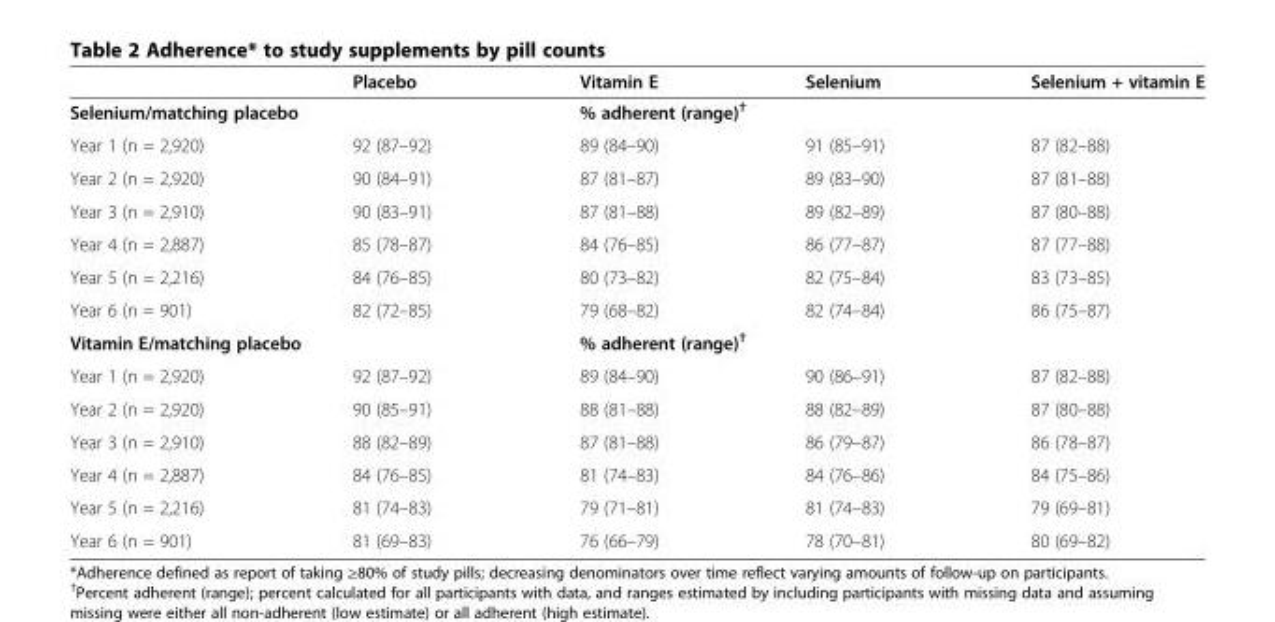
<table><thead><tr><td></td><td>Placebo</td><td>Vitamin E</td><td>Selenium</td><td>Selenium + vitamin E</td></tr></thead><tbody><tr><td colspan="2">Selenium/matching placebo</td><td colspan="3">% adherent (range)<sup>†</sup></td></tr><tr><td>Year 1 (n = 2,920)</td><td>92 (87–92)</td><td>89 (84–90)</td><td>91 (85–91)</td><td>87 (82–88)</td></tr><tr><td>Year 2 (n = 2,920)</td><td>90 (84–91)</td><td>87 (81–87)</td><td>89 (83–90)</td><td>87 (81–88)</td></tr><tr><td>Year 3 (n = 2,910)</td><td>90 (83–91)</td><td>87 (81–88)</td><td>89 (82–89)</td><td>87 (80–88)</td></tr><tr><td>Year 4 (n = 2,887)</td><td>85 (78–87)</td><td>84 (76–85)</td><td>86 (77–87)</td><td>87 (77–88)</td></tr><tr><td>Year 5 (n = 2,216)</td><td>84 (76–85)</td><td>80 (73–82)</td><td>82 (75–84)</td><td>83 (73–85)</td></tr><tr><td>Year 6 (n = 901)</td><td>82 (72–85)</td><td>79 (68–82)</td><td>82 (74–84)</td><td>86 (75–87)</td></tr><tr><td colspan="2">Vitamin E/matching placebo</td><td colspan="3">% adherent (range)<sup>†</sup></td></tr><tr><td>Year 1 (n = 2,920)</td><td>92 (87–92)</td><td>89 (84–90)</td><td>90 (86–91)</td><td>87 (82–88)</td></tr><tr><td>Year 2 (n = 2,920)</td><td>90 (85–91)</td><td>88 (81–88)</td><td>88 (82–89)</td><td>87 (80–88)</td></tr><tr><td>Year 3 (n = 2,910)</td><td>88 (82–89)</td><td>87 (81–88)</td><td>86 (79–87)</td><td>86 (78–87)</td></tr><tr><td>Year 4 (n = 2,887)</td><td>84 (76–85)</td><td>81 (74–83)</td><td>84 (76–86)</td><td>84 (75–86)</td></tr><tr><td>Year 5 (n = 2,216)</td><td>81 (74–83)</td><td>79 (71–81)</td><td>81 (74–83)</td><td>79 (69–81)</td></tr><tr><td>Year 6 (n = 901)</td><td>81 (69–83)</td><td>76 (66–79)</td><td>78 (70–81)</td><td>80 (69–82)</td></tr></tbody></table>